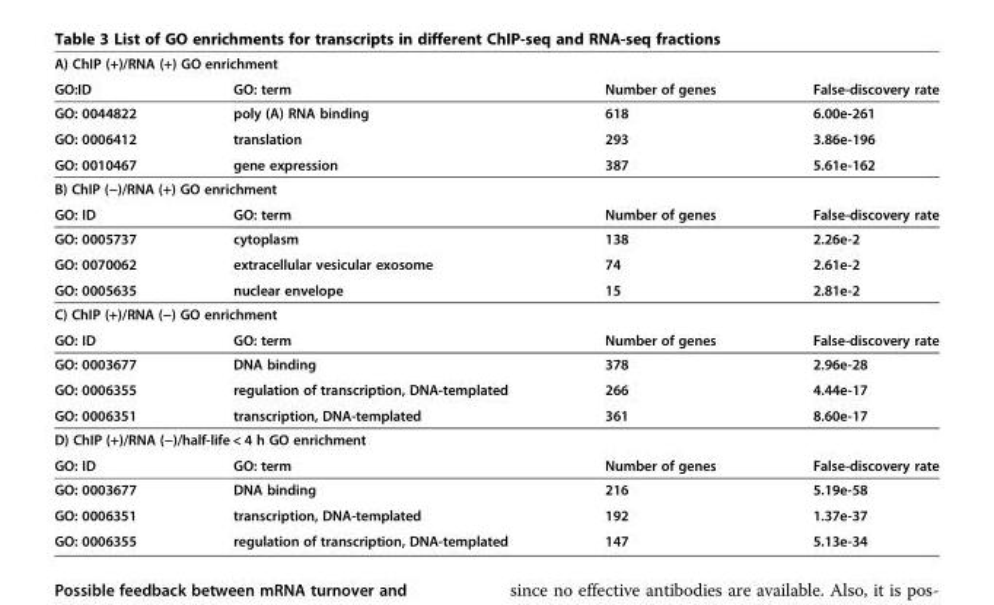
<table><tbody><tr><td colspan="4">A) ChIP (+)/RNA (+) GO enrichment</td></tr><tr><td>GO:ID</td><td>GO: term</td><td>Number of genes</td><td>False-discovery rate</td></tr><tr><td>GO: 0044822</td><td>poly (A) RNA binding</td><td>618</td><td>6.00e-261</td></tr><tr><td>GO: 0006412</td><td>translation</td><td>293</td><td>3.86e-196</td></tr><tr><td>GO: 0010467</td><td>gene expression</td><td>387</td><td>5.61e-162</td></tr><tr><td colspan="4">B) ChIP (−)/RNA (+) GO enrichment</td></tr><tr><td>GO: ID</td><td>GO: term</td><td>Number of genes</td><td>False-discovery rate</td></tr><tr><td>GO: 0005737</td><td>cytoplasm</td><td>138</td><td>2.26e-2</td></tr><tr><td>GO: 0070062</td><td>extracellular vesicular exosome</td><td>74</td><td>2.61e-2</td></tr><tr><td>GO: 0005635</td><td>nuclear envelope</td><td>15</td><td>2.81e-2</td></tr><tr><td colspan="4">C) ChIP (+)/RNA (−) GO enrichment</td></tr><tr><td>GO: ID</td><td>GO: term</td><td>Number of genes</td><td>False-discovery rate</td></tr><tr><td>GO: 0003677</td><td>DNA binding</td><td>378</td><td>2.96e-28</td></tr><tr><td>GO: 0006355</td><td>regulation of transcription, DNA-templated</td><td>266</td><td>4.44e-17</td></tr><tr><td>GO: 0006351</td><td>transcription, DNA-templated</td><td>361</td><td>8.60e-17</td></tr><tr><td colspan="4">D) ChIP (+)/RNA (−)/half-life &lt; 4 h GO enrichment</td></tr><tr><td>GO: ID</td><td>GO: term</td><td>Number of genes</td><td>False-discovery rate</td></tr><tr><td>GO: 0003677</td><td>DNA binding</td><td>216</td><td>5.19e-58</td></tr><tr><td>GO: 0006351</td><td>transcription, DNA-templated</td><td>192</td><td>1.37e-37</td></tr><tr><td>GO: 0006355</td><td>regulation of transcription, DNA-templated</td><td>147</td><td>5.13e-34</td></tr></tbody></table>